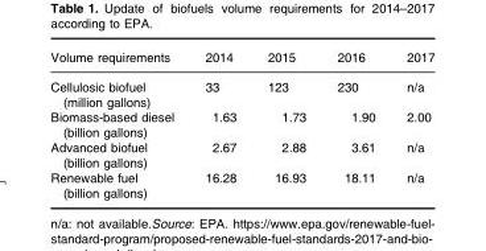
<table><thead><tr><td>Volume requirements</td><td>2014</td><td>2015</td><td>2016</td><td>2017</td></tr></thead><tbody><tr><td>Cellulosic biofuel (million gallons)</td><td>33</td><td>123</td><td>230</td><td>n/a</td></tr><tr><td>Biomass-based diesel (billion gallons)</td><td>1.63</td><td>1.73</td><td>1.90</td><td>2.00</td></tr><tr><td>Advanced biofuel (billion gallons)</td><td>2.67</td><td>2.88</td><td>3.61</td><td>n/a</td></tr><tr><td>Renewable fuel (billion gallons)</td><td>16.28</td><td>16.93</td><td>18.11</td><td>n/a</td></tr></tbody></table>